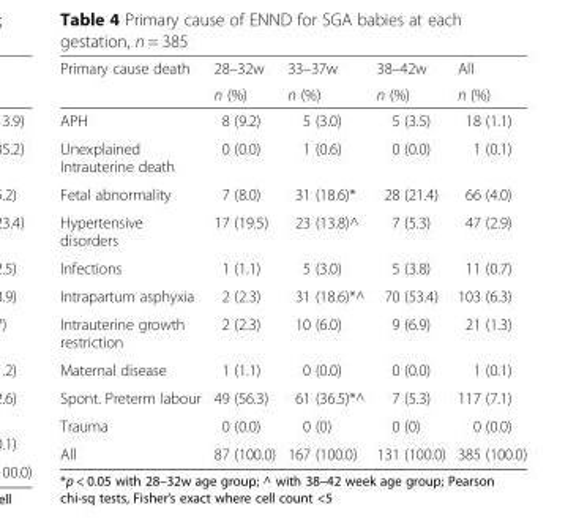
<table><thead><tr><td rowspan="2">Primary cause death</td><td rowspan="2">28–32w n (%)</td><td rowspan="2">33–37w n (%)</td><td rowspan="2">38–42w n (%)</td><td rowspan="2">All n (%)</td></tr><tr></tr></thead><tbody><tr><td>APH</td><td>8 (9.2)</td><td>5 (3.0)</td><td>5 (3.5)</td><td>18 (1.1)</td></tr><tr><td>Unexplained Intrauterine death</td><td>0 (0.0)</td><td>1 (0.6)</td><td>0 (0.0)</td><td>1 (0.1)</td></tr><tr><td>Fetal abnormality</td><td>7 (8.0)</td><td>31 (18.6)*</td><td>28 (21.4)</td><td>66 (4.0)</td></tr><tr><td>Hypertensive disorders</td><td>17 (19.5)</td><td>23 (13.8)^</td><td>7 (5.3)</td><td>47 (2.9)</td></tr><tr><td>Infections</td><td>1 (1.1)</td><td>5 (3.0)</td><td>5 (3.8)</td><td>11 (0.7)</td></tr><tr><td>Intrapartum asphyxia</td><td>2 (2.3)</td><td>31 (18.6)*^</td><td>70 (53.4)</td><td>103 (6.3)</td></tr><tr><td>Intrauterine growth restriction</td><td>2 (2.3)</td><td>10 (6.0)</td><td>9 (6.9)</td><td>21 (1.3)</td></tr><tr><td>Maternal disease</td><td>1 (1.1)</td><td>0 (0.0)</td><td>0 (0.0)</td><td>1 (0.1)</td></tr><tr><td>Spont. Preterm labour</td><td>49 (56.3)</td><td>61 (36.5)*^</td><td>7 (5.3)</td><td>117 (7.1)</td></tr><tr><td>Trauma</td><td>0 (0.0)</td><td>0 (0)</td><td>0 (0)</td><td>0 (0.0)</td></tr><tr><td>All</td><td>87 (100.0)</td><td>167 (100.0)</td><td>131 (100.0)</td><td>385 (100.0)</td></tr></tbody></table>